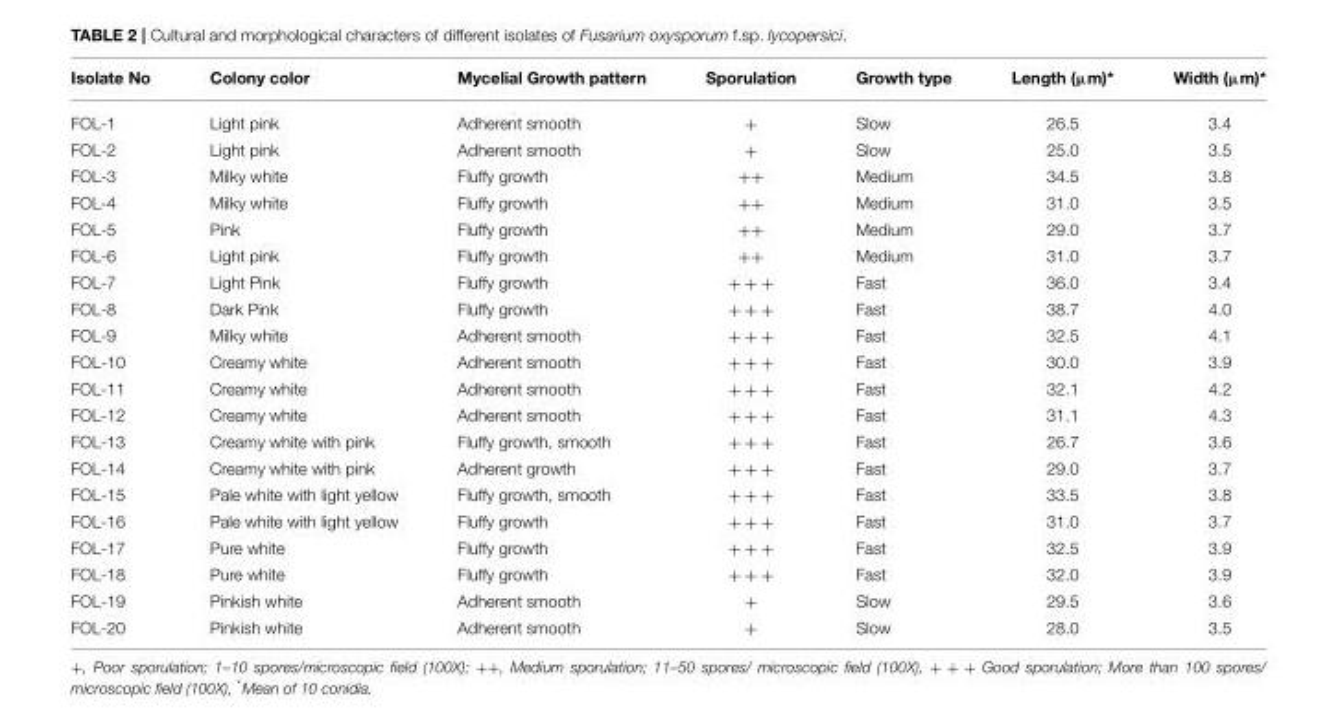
<table><thead><tr><td>Isolate No</td><td>Colony color</td><td>Mycelial Growth pattern</td><td>Sporulation</td><td>Growth type</td><td>Length (µm)*</td><td>Width (µm)*</td></tr></thead><tbody><tr><td>FOL-1</td><td>Light pink</td><td>Adherent smooth</td><td>+</td><td>Slow</td><td>26.5</td><td>3.4</td></tr><tr><td>FOL-2</td><td>Light pink</td><td>Adherent smooth</td><td>+</td><td>Slow</td><td>25.0</td><td>3.5</td></tr><tr><td>FOL-3</td><td>Milky white</td><td>Fluffy growth</td><td>++</td><td>Medium</td><td>34.5</td><td>3.8</td></tr><tr><td>FOL-4</td><td>Milky white</td><td>Fluffy growth</td><td>++</td><td>Medium</td><td>31.0</td><td>3.5</td></tr><tr><td>FOL-5</td><td>Pink</td><td>Fluffy growth</td><td>++</td><td>Medium</td><td>29.0</td><td>3.7</td></tr><tr><td>FOL-6</td><td>Light pink</td><td>Fluffy growth</td><td>++</td><td>Medium</td><td>31.0</td><td>3.7</td></tr><tr><td>FOL-7</td><td>Light Pink</td><td>Fluffy growth</td><td>+ + +</td><td>Fast</td><td>36.0</td><td>3.4</td></tr><tr><td>FOL-8</td><td>Dark Pink</td><td>Fluffy growth</td><td>+ + +</td><td>Fast</td><td>38.7</td><td>4.0</td></tr><tr><td>FOL-9</td><td>Milky white</td><td>Adherent smooth</td><td>+ + +</td><td>Fast</td><td>32.5</td><td>4.1</td></tr><tr><td>FOL-10</td><td>Creamy white</td><td>Adherent smooth</td><td>+ + +</td><td>Fast</td><td>30.0</td><td>3.9</td></tr><tr><td>FOL-11</td><td>Creamy white</td><td>Adherent smooth</td><td>+ + +</td><td>Fast</td><td>32.1</td><td>4.2</td></tr><tr><td>FOL-12</td><td>Creamy white</td><td>Adherent smooth</td><td>+ + +</td><td>Fast</td><td>31.1</td><td>4.3</td></tr><tr><td>FOL-13</td><td>Creamy white with pink</td><td>Fluffy growth, smooth</td><td>+ + +</td><td>Fast</td><td>26.7</td><td>3.6</td></tr><tr><td>FOL-14</td><td>Creamy white with pink</td><td>Adherent growth</td><td>+ + +</td><td>Fast</td><td>29.0</td><td>3.7</td></tr><tr><td>FOL-15</td><td>Pale white with light yellow</td><td>Fluffy growth, smooth</td><td>+ + +</td><td>Fast</td><td>33.5</td><td>3.8</td></tr><tr><td>FOL-16</td><td>Pale white with light yellow</td><td>Fluffy growth</td><td>+ + +</td><td>Fast</td><td>31.0</td><td>3.7</td></tr><tr><td>FOL-17</td><td>Pure white</td><td>Fluffy growth</td><td>+ + +</td><td>Fast</td><td>32.5</td><td>3.9</td></tr><tr><td>FOL-18</td><td>Pure white</td><td>Fluffy growth</td><td>+ + +</td><td>Fast</td><td>32.0</td><td>3.9</td></tr><tr><td>FOL-19</td><td>Pinkish white</td><td>Adherent smooth</td><td>+</td><td>Slow</td><td>29.5</td><td>3.6</td></tr><tr><td>FOL-20</td><td>Pinkish white</td><td>Adherent smooth</td><td>+</td><td>Slow</td><td>28.0</td><td>3.5</td></tr></tbody></table>